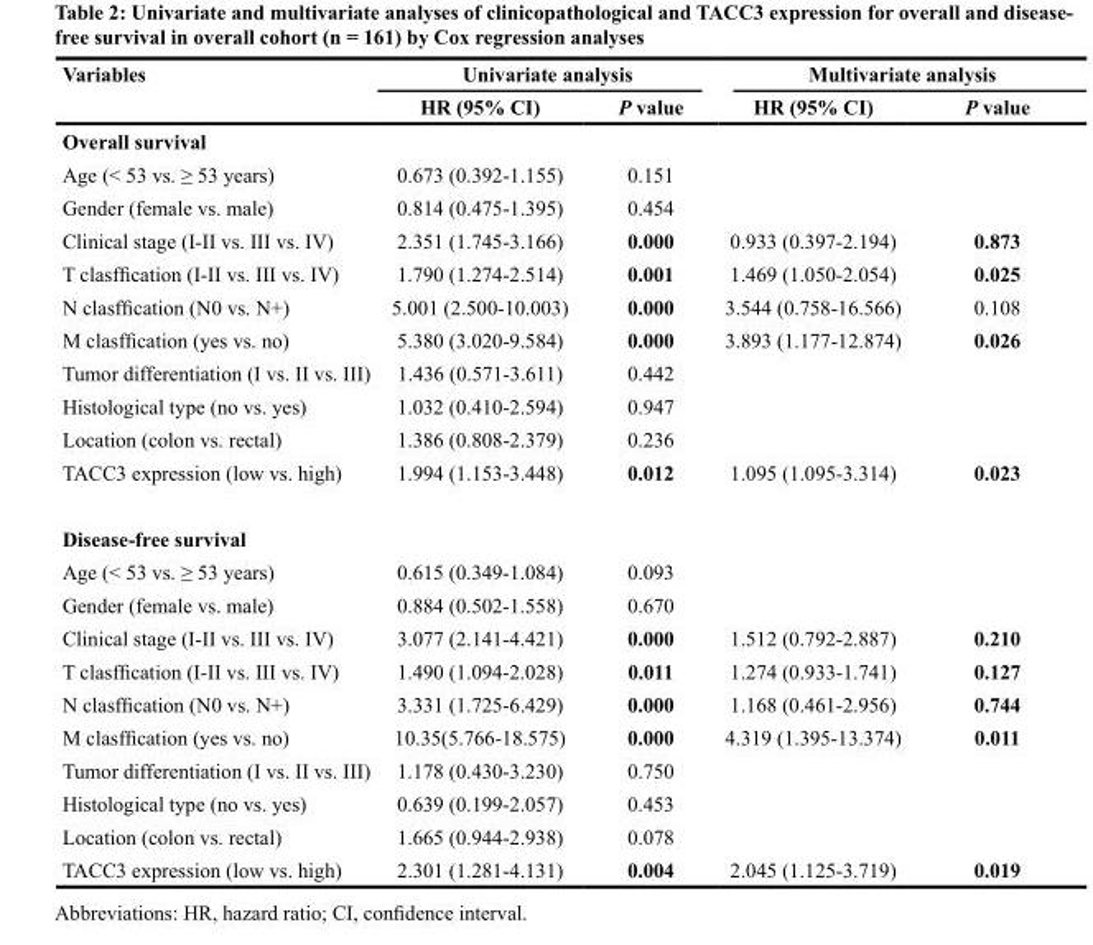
<table><thead><tr><td rowspan="2">Variables</td><td colspan="2">Univariate analysis</td><td colspan="2">Multivariate analysis</td></tr><tr><td>HR (95% CI)</td><td>P value</td><td>HR (95% CI)</td><td>P value</td></tr></thead><tbody><tr><td colspan="5">Overall survival</td></tr><tr><td>Age (&lt; 53 vs. ≥ 53 years)</td><td>0.673 (0.392-1.155)</td><td>0.151</td><td></td><td></td></tr><tr><td>Gender (female vs. male)</td><td>0.814 (0.475-1.395)</td><td>0.454</td><td></td><td></td></tr><tr><td>Clinical stage (I-II vs. III vs. IV)</td><td>2.351 (1.745-3.166)</td><td>0.000</td><td>0.933 (0.397-2.194)</td><td>0.873</td></tr><tr><td>T clasffication (I-II vs. III vs. IV)</td><td>1.790 (1.274-2.514)</td><td>0.001</td><td>1.469 (1.050-2.054)</td><td>0.025</td></tr><tr><td>N clasffication (N0 vs. N+)</td><td>5.001 (2.500-10.003)</td><td>0.000</td><td>3.544 (0.758-16.566)</td><td>0.108</td></tr><tr><td>M clasffication (yes vs. no)</td><td>5.380 (3.020-9.584)</td><td>0.000</td><td>3.893 (1.177-12.874)</td><td>0.026</td></tr><tr><td>Tumor differentiation (I vs. II vs. III)</td><td>1.436 (0.571-3.611)</td><td>0.442</td><td></td><td></td></tr><tr><td>Histological type (no vs. yes)</td><td>1.032 (0.410-2.594)</td><td>0.947</td><td></td><td></td></tr><tr><td>Location (colon vs. rectal)</td><td>1.386 (0.808-2.379)</td><td>0.236</td><td></td><td></td></tr><tr><td>TACC3 expression (low vs. high)</td><td>1.994 (1.153-3.448)</td><td>0.012</td><td>1.095 (1.095-3.314)</td><td>0.023</td></tr><tr><td colspan="5">Disease-free survival</td></tr><tr><td>Age (&lt; 53 vs. ≥ 53 years)</td><td>0.615 (0.349-1.084)</td><td>0.093</td><td></td><td></td></tr><tr><td>Gender (female vs. male)</td><td>0.884 (0.502-1.558)</td><td>0.670</td><td></td><td></td></tr><tr><td>Clinical stage (I-II vs. III vs. IV)</td><td>3.077 (2.141-4.421)</td><td>0.000</td><td>1.512 (0.792-2.887)</td><td>0.210</td></tr><tr><td>T clasffication (I-II vs. III vs. IV)</td><td>1.490 (1.094-2.028)</td><td>0.011</td><td>1.274 (0.933-1.741)</td><td>0.127</td></tr><tr><td>N clasffication (N0 vs. N+)</td><td>3.331 (1.725-6.429)</td><td>0.000</td><td>1.168 (0.461-2.956)</td><td>0.744</td></tr><tr><td>M clasffication (yes vs. no)</td><td>10.35(5.766-18.575)</td><td>0.000</td><td>4.319 (1.395-13.374)</td><td>0.011</td></tr><tr><td>Tumor differentiation (I vs. II vs. III)</td><td>1.178 (0.430-3.230)</td><td>0.750</td><td></td><td></td></tr><tr><td>Histological type (no vs. yes)</td><td>0.639 (0.199-2.057)</td><td>0.453</td><td></td><td></td></tr><tr><td>Location (colon vs. rectal)</td><td>1.665 (0.944-2.938)</td><td>0.078</td><td></td><td></td></tr><tr><td>TACC3 expression (low vs. high)</td><td>2.301 (1.281-4.131)</td><td>0.004</td><td>2.045 (1.125-3.719)</td><td>0.019</td></tr></tbody></table>